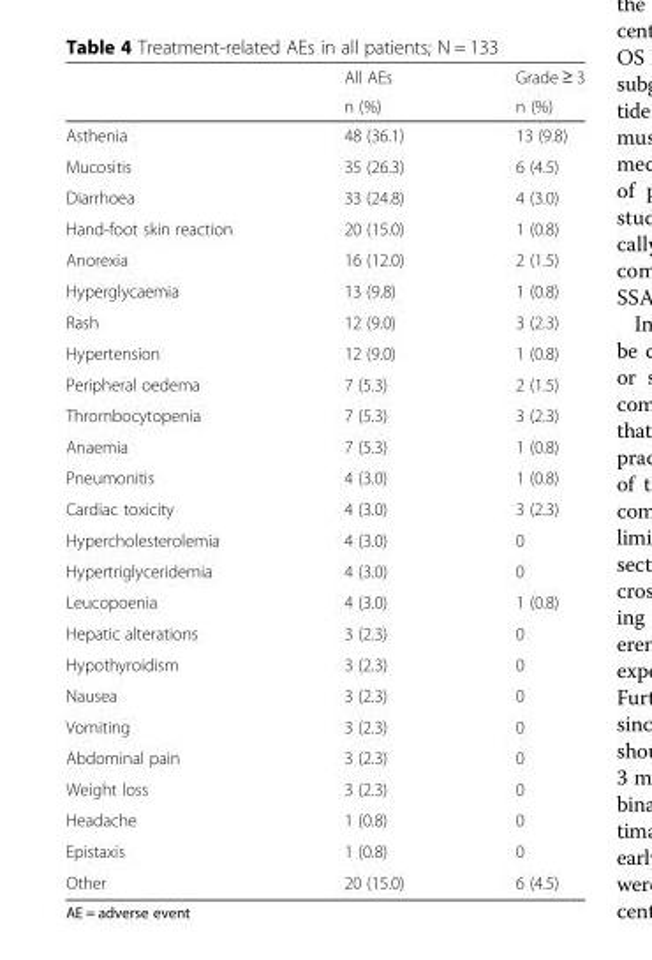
<table><thead><tr><td rowspan="2"></td><td rowspan="2">All AEs n (%)</td><td rowspan="2">Grade ≥ 3 n (%)</td></tr><tr></tr></thead><tbody><tr><td>Asthenia</td><td>48 (36.1)</td><td>13 (9.8)</td></tr><tr><td>Mucositis</td><td>35 (26.3)</td><td>6 (4.5)</td></tr><tr><td>Diarrhoea</td><td>33 (24.8)</td><td>4 (3.0)</td></tr><tr><td>Hand-foot skin reaction</td><td>20 (15.0)</td><td>1 (0.8)</td></tr><tr><td>Anorexia</td><td>16 (12.0)</td><td>2 (1.5)</td></tr><tr><td>Hyperglycaemia</td><td>13 (9.8)</td><td>1 (0.8)</td></tr><tr><td>Rash</td><td>12 (9.0)</td><td>3 (2.3)</td></tr><tr><td>Hypertension</td><td>12 (9.0)</td><td>1 (0.8)</td></tr><tr><td>Peripheral oedema</td><td>7 (5.3)</td><td>2 (1.5)</td></tr><tr><td>Thrombocytopenia</td><td>7 (5.3)</td><td>3 (2.3)</td></tr><tr><td>Anaemia</td><td>7 (5.3)</td><td>1 (0.8)</td></tr><tr><td>Pneumonitis</td><td>4 (3.0)</td><td>1 (0.8)</td></tr><tr><td>Cardiac toxicity</td><td>4 (3.0)</td><td>3 (2.3)</td></tr><tr><td>Hypercholesterolemia</td><td>4 (3.0)</td><td>0</td></tr><tr><td>Hypertriglyceridemia</td><td>4 (3.0)</td><td>0</td></tr><tr><td>Leucopoenia</td><td>4 (3.0)</td><td>1 (0.8)</td></tr><tr><td>Hepatic alterations</td><td>3 (2.3)</td><td>0</td></tr><tr><td>Hypothyroidism</td><td>3 (2.3)</td><td>0</td></tr><tr><td>Nausea</td><td>3 (2.3)</td><td>0</td></tr><tr><td>Vomiting</td><td>3 (2.3)</td><td>0</td></tr><tr><td>Abdominal pain</td><td>3 (2.3)</td><td>0</td></tr><tr><td>Weight loss</td><td>3 (2.3)</td><td>0</td></tr><tr><td>Headache</td><td>1 (0.8)</td><td>0</td></tr><tr><td>Epistaxis</td><td>1 (0.8)</td><td>0</td></tr><tr><td>Other</td><td>20 (15.0)</td><td>6 (4.5)</td></tr></tbody></table>